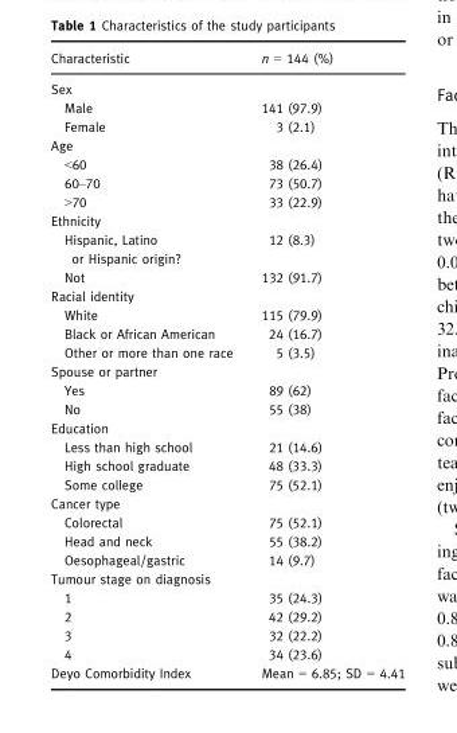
<table><thead><tr><td>Characteristic</td><td>n = 144 (%)</td></tr></thead><tbody><tr><td colspan="2">Sex</td></tr><tr><td>Male</td><td>141 (97.9)</td></tr><tr><td>Female</td><td>3 (2.1)</td></tr><tr><td colspan="2">Age</td></tr><tr><td>&lt;60</td><td>38 (26.4)</td></tr><tr><td>60–70</td><td>73 (50.7)</td></tr><tr><td>&gt;70</td><td>33 (22.9)</td></tr><tr><td colspan="2">Ethnicity</td></tr><tr><td>Hispanic, Latino or Hispanic origin?</td><td>12 (8.3)</td></tr><tr><td>Not</td><td>132 (91.7)</td></tr><tr><td colspan="2">Racial identity</td></tr><tr><td>White</td><td>115 (79.9)</td></tr><tr><td>Black or African American</td><td>24 (16.7)</td></tr><tr><td>Other or more than one race</td><td>5 (3.5)</td></tr><tr><td colspan="2">Spouse or partner</td></tr><tr><td>Yes</td><td>89 (62)</td></tr><tr><td>No</td><td>55 (38)</td></tr><tr><td colspan="2">Education</td></tr><tr><td>Less than high school</td><td>21 (14.6)</td></tr><tr><td>High school graduate</td><td>48 (33.3)</td></tr><tr><td>Some college</td><td>75 (52.1)</td></tr><tr><td colspan="2">Cancer type</td></tr><tr><td>Colorectal</td><td>75 (52.1)</td></tr><tr><td>Head and neck</td><td>55 (38.2)</td></tr><tr><td>Oesophageal/gastric</td><td>14 (9.7)</td></tr><tr><td colspan="2">Tumour stage on diagnosis</td></tr><tr><td>1</td><td>35 (24.3)</td></tr><tr><td>2</td><td>42 (29.2)</td></tr><tr><td>3</td><td>32 (22.2)</td></tr><tr><td>4</td><td>34 (23.6)</td></tr><tr><td>Deyo Comorbidity Index</td><td>Mean = 6.85; SD = 4.41</td></tr></tbody></table>